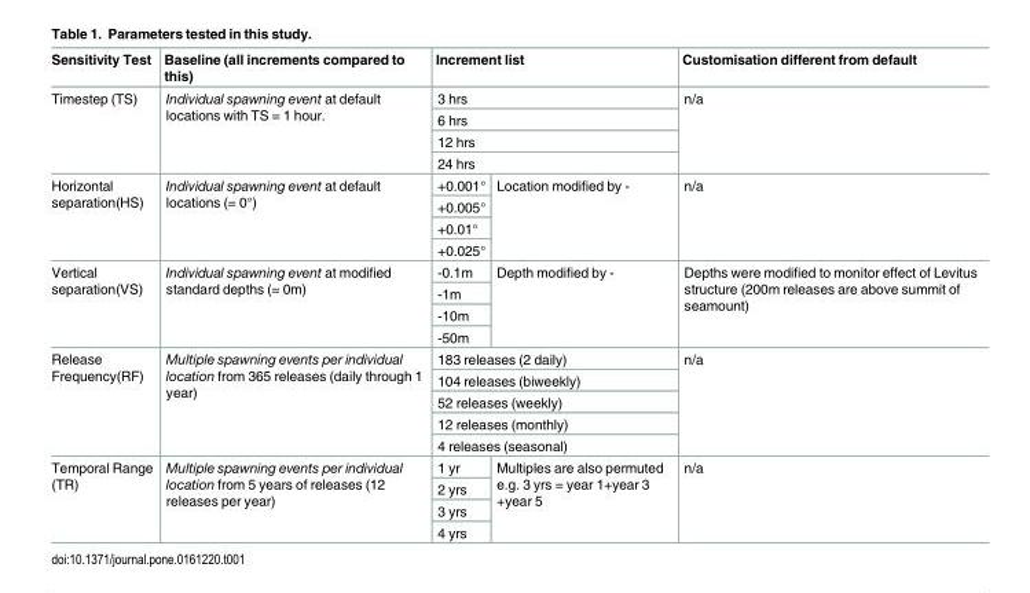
<table><thead><tr><td>Sensitivity Test</td><td>Baseline (all increments compared to this)</td><td colspan="2">Increment list</td><td>Customisation different from default</td></tr></thead><tbody><tr><td rowspan="4">Timestep (TS)</td><td rowspan="4">Individual spawning event at default locations with TS = 1 hour.</td><td colspan="2">3 hrs</td><td rowspan="4">n/a</td></tr><tr><td colspan="2">6 hrs</td></tr><tr><td colspan="2">12 hrs</td></tr><tr><td colspan="2">24 hrs</td></tr><tr><td rowspan="4">Horizontal separation(HS)</td><td rowspan="4">Individual spawning event at default locations (= 0°)</td><td>+0.001°</td><td rowspan="4">Location modified by -</td><td rowspan="4">n/a</td></tr><tr><td>+0.005°</td></tr><tr><td>+0.01°</td></tr><tr><td>+0.025°</td></tr><tr><td rowspan="4">Vertical separation(VS)</td><td rowspan="4">Individual spawning event at modified standard depths (= 0m)</td><td>-0.1m</td><td rowspan="4">Depth modified by -</td><td rowspan="4">Depths were modified to monitor effect of Levitus structure (200m releases are above summit of seamount)</td></tr><tr><td>-1m</td></tr><tr><td>-10m</td></tr><tr><td>-50m</td></tr><tr><td rowspan="5">Release Frequency(RF)</td><td rowspan="5">Multiple spawning events per individual location from 365 releases (daily through 1 year)</td><td colspan="2">183 releases (2 daily)</td><td rowspan="5">n/a</td></tr><tr><td colspan="2">104 releases (biweekly)</td></tr><tr><td colspan="2">52 releases (weekly)</td></tr><tr><td colspan="2">12 releases (monthly)</td></tr><tr><td colspan="2">4 releases (seasonal)</td></tr><tr><td rowspan="4">Temporal Range (TR)</td><td rowspan="4">Multiple spawning events per individual location from 5 years of releases (12 releases per year)</td><td>1 yr</td><td rowspan="4">Multiples are also permuted e.g. 3 yrs = year 1+year 3 +year 5</td><td rowspan="4">n/a</td></tr><tr><td>2 yrs</td></tr><tr><td>3 yrs</td></tr><tr><td>4 yrs</td></tr></tbody></table>